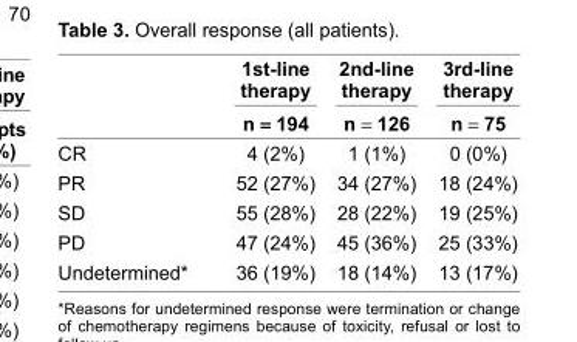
<table><thead><tr><td rowspan="2"></td><td rowspan="2">1st-line therapy n = 194</td><td rowspan="2">2nd-line therapy n = 126</td><td rowspan="2">3rd-line therapy n = 75</td></tr><tr></tr></thead><tbody><tr><td>CR</td><td>4 (2%)</td><td>1 (1%)</td><td>0 (0%)</td></tr><tr><td>PR</td><td>52 (27%)</td><td>34 (27%)</td><td>18 (24%)</td></tr><tr><td>SD</td><td>55 (28%)</td><td>28 (22%)</td><td>19 (25%)</td></tr><tr><td>PD</td><td>47 (24%)</td><td>45 (36%)</td><td>25 (33%)</td></tr><tr><td>Undetermined*</td><td>36 (19%)</td><td>18 (14%)</td><td>13 (17%)</td></tr></tbody></table>